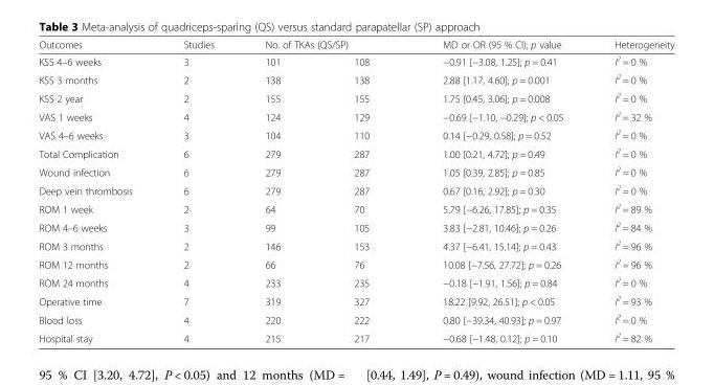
<table><thead><tr><td rowspan="2">Outcomes KSS 4–6 weeks</td><td rowspan="2">Studies 3</td><td colspan="2">No. of TKAs (QS/SP)</td><td rowspan="2">MD or OR (95 % CI); p value −0.91 [−3.08, 1.25]; p = 0.41</td><td rowspan="2">Heterogeneity I<sup>2</sup> = 0 %</td></tr><tr><td>101</td><td>108</td></tr></thead><tbody><tr><td>KSS 3 months</td><td>2</td><td>138</td><td>138</td><td>2.88 [1.17, 4.60]; p = 0.001</td><td>I<sup>2</sup> = 0 %</td></tr><tr><td>KSS 2 year</td><td>2</td><td>155</td><td>155</td><td>1.75 [0.45, 3.06]; p = 0.008</td><td>I<sup>2</sup> = 0 %</td></tr><tr><td>VAS 1 weeks</td><td>4</td><td>124</td><td>129</td><td>−0.69 [−1.10, −0.29]; p &lt; 0.05</td><td>I<sup>2</sup> = 32 %</td></tr><tr><td>VAS 4–6 weeks</td><td>3</td><td>104</td><td>110</td><td>0.14 [−0.29, 0.58]; p = 0.52</td><td>I<sup>2</sup> = 0 %</td></tr><tr><td>Total Complication</td><td>6</td><td>279</td><td>287</td><td>1.00 [0.21, 4.72]; p = 0.49</td><td>I<sup>2</sup> = 0 %</td></tr><tr><td>Wound infection</td><td>6</td><td>279</td><td>287</td><td>1.05 [0.39, 2.85]; p = 0.85</td><td>I<sup>2</sup> = 0 %</td></tr><tr><td>Deep vein thrombosis</td><td>6</td><td>279</td><td>287</td><td>0.67 [0.16, 2.92]; p = 0.30</td><td>I<sup>2</sup> = 0 %</td></tr><tr><td>ROM 1 week</td><td>2</td><td>64</td><td>70</td><td>5.79 [−6.26, 17.85]; p = 0.35</td><td>I<sup>2</sup> = 89 %</td></tr><tr><td>ROM 4–6 weeks</td><td>3</td><td>99</td><td>105</td><td>3.83 [−2.81, 10.46]; p = 0.26</td><td>I<sup>2</sup> = 84 %</td></tr><tr><td>ROM 3 months</td><td>2</td><td>146</td><td>153</td><td>4.37 [−6.41, 15.14]; p = 0.43</td><td>I<sup>2</sup> = 96 %</td></tr><tr><td>ROM 12 months</td><td>2</td><td>66</td><td>76</td><td>10.08 [−7.56, 27.72]; p = 0.26</td><td>I<sup>2</sup> = 96 %</td></tr><tr><td>ROM 24 months</td><td>4</td><td>233</td><td>235</td><td>−0.18 [−1.91, 1.56]; p = 0.84</td><td>I<sup>2</sup> = 0 %</td></tr><tr><td>Operative time</td><td>7</td><td>319</td><td>327</td><td>18.22 [9.92, 26.51]; p &lt; 0.05</td><td>I<sup>2</sup> = 93 %</td></tr><tr><td>Blood loss</td><td>4</td><td>220</td><td>222</td><td>0.80 [−39.34, 40.93]; p = 0.97</td><td>I<sup>2</sup> = 0 %</td></tr><tr><td>Hospital stay</td><td>4</td><td>215</td><td>217</td><td>−0.68 [−1.48, 0.12]; p = 0.10</td><td>I<sup>2</sup> = 82 %</td></tr></tbody></table>